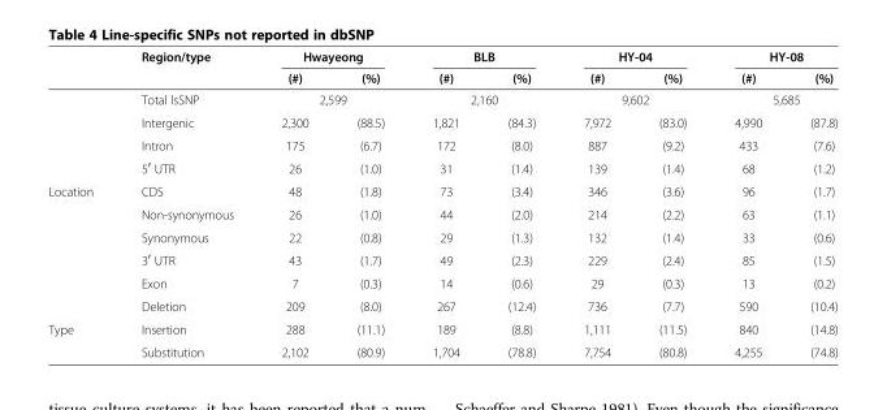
<table><thead><tr><td rowspan="2"></td><td rowspan="2">Region/type</td><td colspan="2">Hwayeong</td><td colspan="2">BLB</td><td colspan="2">HY-04</td><td colspan="2">HY-08</td></tr><tr><td>(#)</td><td>(%)</td><td>(#)</td><td>(%)</td><td>(#)</td><td>(%)</td><td>(#)</td><td>(%)</td></tr></thead><tbody><tr><td rowspan="9">Location</td><td>Total lsSNP</td><td colspan="2">2,599</td><td colspan="2">2,160</td><td colspan="2">9,602</td><td colspan="2">5,685</td></tr><tr><td>Intergenic</td><td>2,300</td><td>(88.5)</td><td>1,821</td><td>(84.3)</td><td>7,972</td><td>(83.0)</td><td>4,990</td><td>(87.8)</td></tr><tr><td>Intron</td><td>175</td><td>(6.7)</td><td>172</td><td>(8.0)</td><td>887</td><td>(9.2)</td><td>433</td><td>(7.6)</td></tr><tr><td>5<sup>′</sup> UTR</td><td>26</td><td>(1.0)</td><td>31</td><td>(1.4)</td><td>139</td><td>(1.4)</td><td>68</td><td>(1.2)</td></tr><tr><td>CDS</td><td>48</td><td>(1.8)</td><td>73</td><td>(3.4)</td><td>346</td><td>(3.6)</td><td>96</td><td>(1.7)</td></tr><tr><td>Non-synonymous</td><td>26</td><td>(1.0)</td><td>44</td><td>(2.0)</td><td>214</td><td>(2.2)</td><td>63</td><td>(1.1)</td></tr><tr><td>Synonymous</td><td>22</td><td>(0.8)</td><td>29</td><td>(1.3)</td><td>132</td><td>(1.4)</td><td>33</td><td>(0.6)</td></tr><tr><td>3<sup>′</sup> UTR</td><td>43</td><td>(1.7)</td><td>49</td><td>(2.3)</td><td>229</td><td>(2.4)</td><td>85</td><td>(1.5)</td></tr><tr><td>Exon</td><td>7</td><td>(0.3)</td><td>14</td><td>(0.6)</td><td>29</td><td>(0.3)</td><td>13</td><td>(0.2)</td></tr><tr><td rowspan="3">Type</td><td>Deletion</td><td>209</td><td>(8.0)</td><td>267</td><td>(12.4)</td><td>736</td><td>(7.7)</td><td>590</td><td>(10.4)</td></tr><tr><td>Insertion</td><td>288</td><td>(11.1)</td><td>189</td><td>(8.8)</td><td>1,111</td><td>(11.5)</td><td>840</td><td>(14.8)</td></tr><tr><td>Substitution</td><td>2,102</td><td>(80.9)</td><td>1,704</td><td>(78.8)</td><td>7,754</td><td>(80.8)</td><td>4,255</td><td>(74.8)</td></tr></tbody></table>